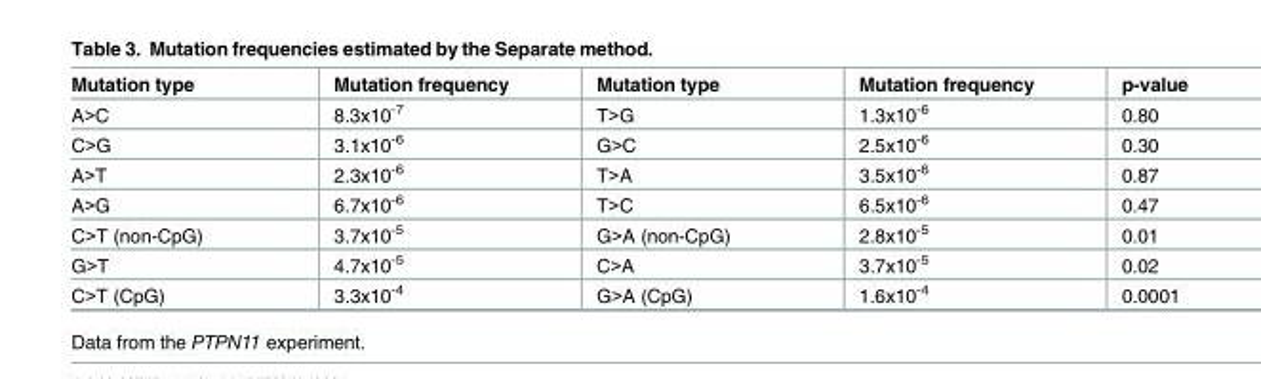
<table><thead><tr><td>Mutation type</td><td>Mutation frequency</td><td>Mutation type</td><td>Mutation frequency</td><td>p-value</td></tr></thead><tbody><tr><td>A&gt;C</td><td>8.3x10<sup>-7</sup></td><td>T&gt;G</td><td>1.3x10<sup>-6</sup></td><td>0.80</td></tr><tr><td>C&gt;G</td><td>3.1x10<sup>-6</sup></td><td>G&gt;C</td><td>2.5x10<sup>-6</sup></td><td>0.30</td></tr><tr><td>A&gt;T</td><td>2.3x10<sup>-6</sup></td><td>T&gt;A</td><td>3.5x10<sup>-6</sup></td><td>0.87</td></tr><tr><td>A&gt;G</td><td>6.7x10<sup>-6</sup></td><td>T&gt;C</td><td>6.5x10<sup>-6</sup></td><td>0.47</td></tr><tr><td>C&gt;T (non-CpG)</td><td>3.7x10<sup>-5</sup></td><td>G&gt;A (non-CpG)</td><td>2.8x10<sup>-5</sup></td><td>0.01</td></tr><tr><td>G&gt;T</td><td>4.7x10<sup>-5</sup></td><td>C&gt;A</td><td>3.7x10<sup>-5</sup></td><td>0.02</td></tr><tr><td>C&gt;T (CpG)</td><td>3.3x10<sup>-4</sup></td><td>G&gt;A (CpG)</td><td>1.6x10<sup>-4</sup></td><td>0.0001</td></tr></tbody></table>